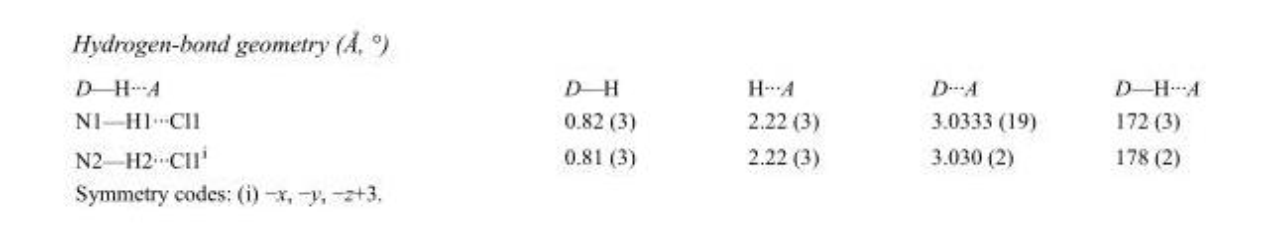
<table><tbody><tr><td>D—H···A</td><td>D—H</td><td>H···A</td><td>D···A</td><td>D—H···A</td></tr><tr><td>N1—H1···Cl1</td><td>0.82 (3)</td><td>2.22 (3)</td><td>3.0333 (19)</td><td>172 (3)</td></tr><tr><td>N2—H2···Cl1<sup>i</sup></td><td>0.81 (3)</td><td>2.22 (3)</td><td>3.030 (2)</td><td>178 (2)</td></tr></tbody></table>